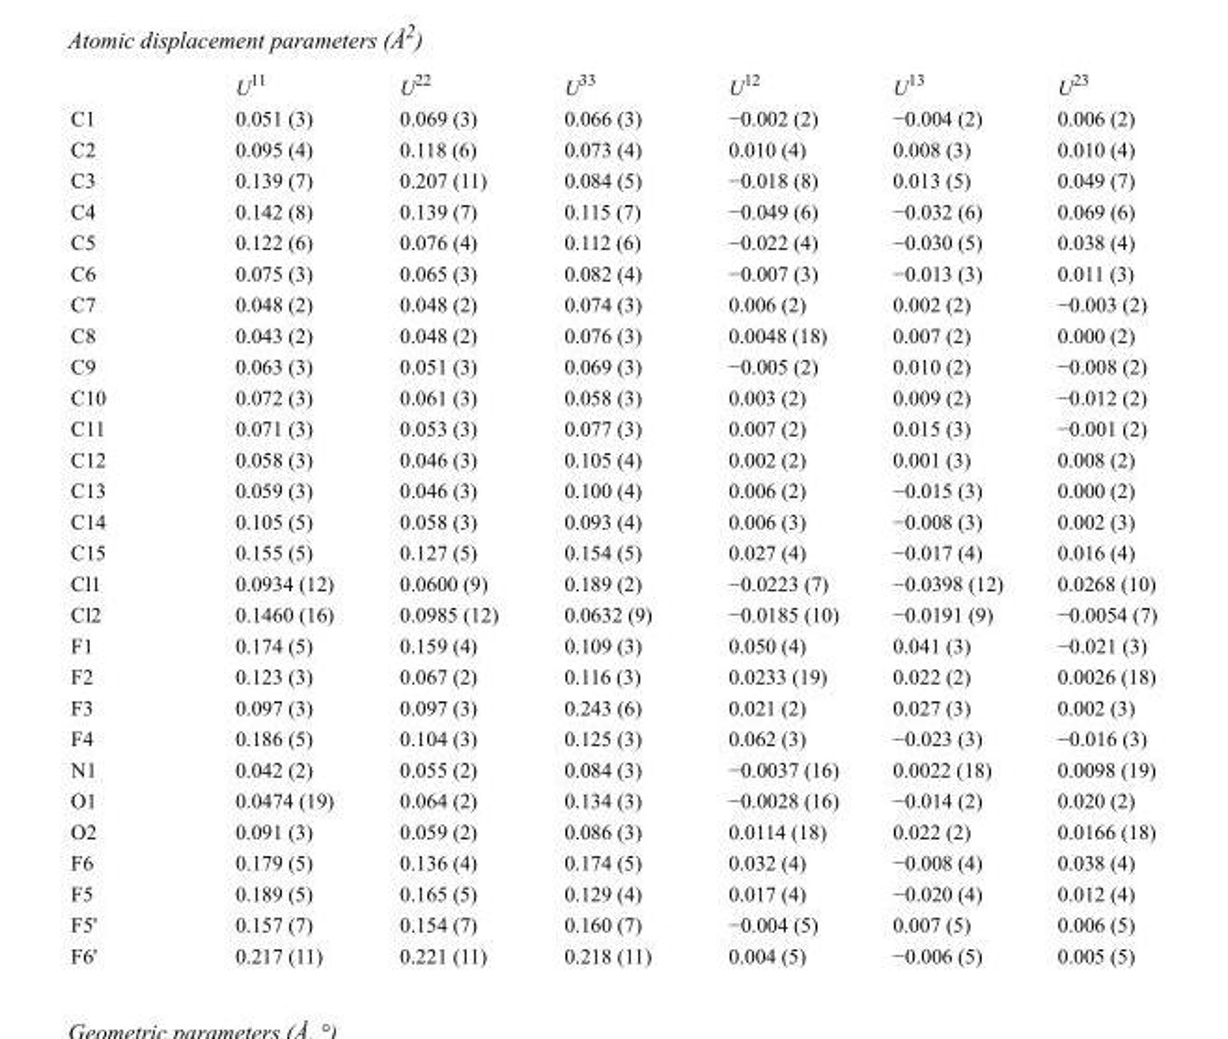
<table><thead><tr><td></td><td>U<sup>11</sup></td><td>U<sup>22</sup></td><td>U<sup>33</sup></td><td>U<sup>12</sup></td><td>U<sup>13</sup></td><td>U<sup>23</sup></td></tr></thead><tbody><tr><td>C1</td><td>0.051 (3)</td><td>0.069 (3)</td><td>0.066 (3)</td><td>−0.002 (2)</td><td>−0.004 (2)</td><td>0.006 (2)</td></tr><tr><td>C2</td><td>0.095 (4)</td><td>0.118 (6)</td><td>0.073 (4)</td><td>0.010 (4)</td><td>0.008 (3)</td><td>0.010 (4)</td></tr><tr><td>C3</td><td>0.139 (7)</td><td>0.207 (11)</td><td>0.084 (5)</td><td>−0.018 (8)</td><td>0.013 (5)</td><td>0.049 (7)</td></tr><tr><td>C4</td><td>0.142 (8)</td><td>0.139 (7)</td><td>0.115 (7)</td><td>−0.049 (6)</td><td>−0.032 (6)</td><td>0.069 (6)</td></tr><tr><td>C5</td><td>0.122 (6)</td><td>0.076 (4)</td><td>0.112 (6)</td><td>−0.022 (4)</td><td>−0.030 (5)</td><td>0.038 (4)</td></tr><tr><td>C6</td><td>0.075 (3)</td><td>0.065 (3)</td><td>0.082 (4)</td><td>−0.007 (3)</td><td>−0.013 (3)</td><td>0.011 (3)</td></tr><tr><td>C7</td><td>0.048 (2)</td><td>0.048 (2)</td><td>0.074 (3)</td><td>0.006 (2)</td><td>0.002 (2)</td><td>−0.003 (2)</td></tr><tr><td>C8</td><td>0.043 (2)</td><td>0.048 (2)</td><td>0.076 (3)</td><td>0.0048 (18)</td><td>0.007 (2)</td><td>0.000 (2)</td></tr><tr><td>C9</td><td>0.063 (3)</td><td>0.051 (3)</td><td>0.069 (3)</td><td>−0.005 (2)</td><td>0.010 (2)</td><td>−0.008 (2)</td></tr><tr><td>C10</td><td>0.072 (3)</td><td>0.061 (3)</td><td>0.058 (3)</td><td>0.003 (2)</td><td>0.009 (2)</td><td>−0.012 (2)</td></tr><tr><td>C11</td><td>0.071 (3)</td><td>0.053 (3)</td><td>0.077 (3)</td><td>0.007 (2)</td><td>0.015 (3)</td><td>−0.001 (2)</td></tr><tr><td>C12</td><td>0.058 (3)</td><td>0.046 (3)</td><td>0.105 (4)</td><td>0.002 (2)</td><td>0.001 (3)</td><td>0.008 (2)</td></tr><tr><td>C13</td><td>0.059 (3)</td><td>0.046 (3)</td><td>0.100 (4)</td><td>0.006 (2)</td><td>−0.015 (3)</td><td>0.000 (2)</td></tr><tr><td>C14</td><td>0.105 (5)</td><td>0.058 (3)</td><td>0.093 (4)</td><td>0.006 (3)</td><td>−0.008 (3)</td><td>0.002 (3)</td></tr><tr><td>C15</td><td>0.155 (5)</td><td>0.127 (5)</td><td>0.154 (5)</td><td>0.027 (4)</td><td>−0.017 (4)</td><td>0.016 (4)</td></tr><tr><td>Cl1</td><td>0.0934 (12)</td><td>0.0600 (9)</td><td>0.189 (2)</td><td>−0.0223 (7)</td><td>−0.0398 (12)</td><td>0.0268 (10)</td></tr><tr><td>Cl2</td><td>0.1460 (16)</td><td>0.0985 (12)</td><td>0.0632 (9)</td><td>−0.0185 (10)</td><td>−0.0191 (9)</td><td>−0.0054 (7)</td></tr><tr><td>F1</td><td>0.174 (5)</td><td>0.159 (4)</td><td>0.109 (3)</td><td>0.050 (4)</td><td>0.041 (3)</td><td>−0.021 (3)</td></tr><tr><td>F2</td><td>0.123 (3)</td><td>0.067 (2)</td><td>0.116 (3)</td><td>0.0233 (19)</td><td>0.022 (2)</td><td>0.0026 (18)</td></tr><tr><td>F3</td><td>0.097 (3)</td><td>0.097 (3)</td><td>0.243 (6)</td><td>0.021 (2)</td><td>0.027 (3)</td><td>0.002 (3)</td></tr><tr><td>F4</td><td>0.186 (5)</td><td>0.104 (3)</td><td>0.125 (3)</td><td>0.062 (3)</td><td>−0.023 (3)</td><td>−0.016 (3)</td></tr><tr><td>N1</td><td>0.042 (2)</td><td>0.055 (2)</td><td>0.084 (3)</td><td>−0.0037 (16)</td><td>0.0022 (18)</td><td>0.0098 (19)</td></tr><tr><td>O1</td><td>0.0474 (19)</td><td>0.064 (2)</td><td>0.134 (3)</td><td>−0.0028 (16)</td><td>−0.014 (2)</td><td>0.020 (2)</td></tr><tr><td>O2</td><td>0.091 (3)</td><td>0.059 (2)</td><td>0.086 (3)</td><td>0.0114 (18)</td><td>0.022 (2)</td><td>0.0166 (18)</td></tr><tr><td>F6</td><td>0.179 (5)</td><td>0.136 (4)</td><td>0.174 (5)</td><td>0.032 (4)</td><td>−0.008 (4)</td><td>0.038 (4)</td></tr><tr><td>F5</td><td>0.189 (5)</td><td>0.165 (5)</td><td>0.129 (4)</td><td>0.017 (4)</td><td>−0.020 (4)</td><td>0.012 (4)</td></tr><tr><td>F5&#x27;</td><td>0.157 (7)</td><td>0.154 (7)</td><td>0.160 (7)</td><td>−0.004 (5)</td><td>0.007 (5)</td><td>0.006 (5)</td></tr><tr><td>F6&#x27;</td><td>0.217 (11)</td><td>0.221 (11)</td><td>0.218 (11)</td><td>0.004 (5)</td><td>−0.006 (5)</td><td>0.005 (5)</td></tr></tbody></table>